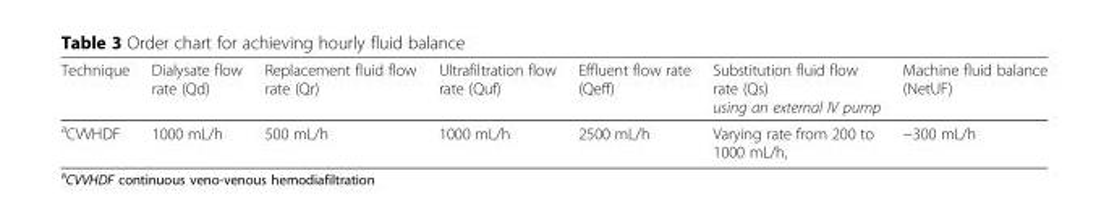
<table><thead><tr><td>Technique</td><td>Dialysate flow rate (Qd)</td><td>Replacement fluid flow rate (Qr)</td><td>Ultrafiltration flow rate (Quf)</td><td>Effluent flow rate (Qeff)</td><td>Substitution fluid flow rate (Qs) using an external IV pump</td><td>Machine fluid balance (NetUF)</td></tr></thead><tbody><tr><td><sup>a</sup>CVVHDF</td><td>1000 mL/h</td><td>500 mL/h</td><td>1000 mL/h</td><td>2500 mL/h</td><td>Varying rate from 200 to 1000 mL/h,</td><td>−300 mL/h</td></tr></tbody></table>